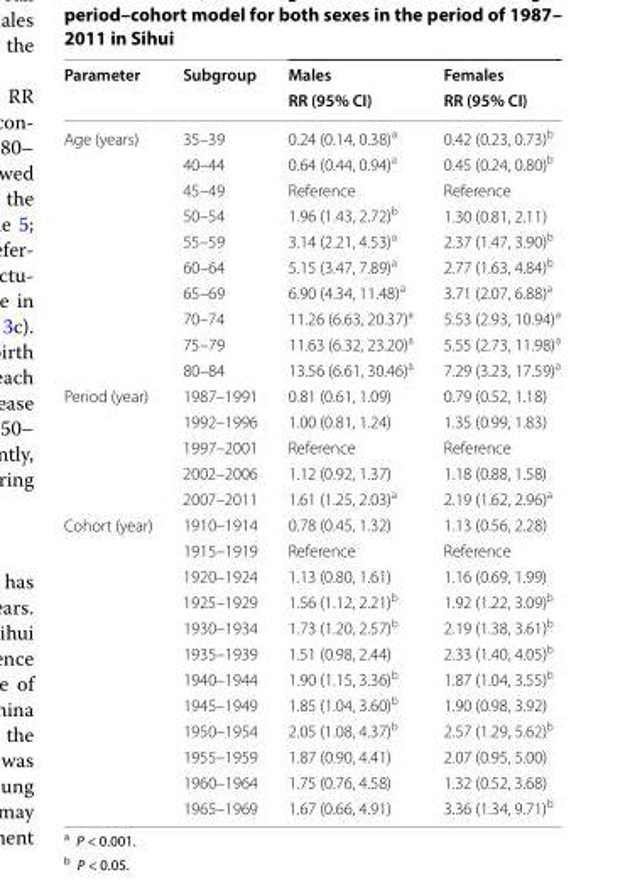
<table><thead><tr><td rowspan="2">Parameter</td><td rowspan="2">Subgroup</td><td rowspan="2">Males RR (95% CI)</td><td rowspan="2">Females RR (95% CI)</td></tr><tr></tr></thead><tbody><tr><td rowspan="10">Age (years)</td><td>35–39</td><td>0.24 (0.14, 0.38)<sup>a</sup></td><td>0.42 (0.23, 0.73)<sup>b</sup></td></tr><tr><td>40–44</td><td>0.64 (0.44, 0.94)<sup>a</sup></td><td>0.45 (0.24, 0.80)<sup>b</sup></td></tr><tr><td>45–49</td><td>Reference</td><td>Reference</td></tr><tr><td>50–54</td><td>1.96 (1.43, 2.72)<sup>b</sup></td><td>1.30 (0.81, 2.11)</td></tr><tr><td>55–59</td><td>3.14 (2.21, 4.53)<sup>a</sup></td><td>2.37 (1.47, 3.90)<sup>b</sup></td></tr><tr><td>60–64</td><td>5.15 (3.47, 7.89)<sup>a</sup></td><td>2.77 (1.63, 4.84)<sup>b</sup></td></tr><tr><td>65–69</td><td>6.90 (4.34, 11.48)<sup>a</sup></td><td>3.71 (2.07, 6.88)<sup>a</sup></td></tr><tr><td>70–74</td><td>11.26 (6.63, 20.37)<sup>a</sup></td><td>5.53 (2.93, 10.94)<sup>a</sup></td></tr><tr><td>75–79</td><td>11.63 (6.32, 23.20)<sup>a</sup></td><td>5.55 (2.73, 11.98)<sup>a</sup></td></tr><tr><td>80–84</td><td>13.56 (6.61, 30.46)<sup>a</sup></td><td>7.29 (3.23, 17.59)<sup>a</sup></td></tr><tr><td rowspan="5">Period (year)</td><td>1987–1991</td><td>0.81 (0.61, 1.09)</td><td>0.79 (0.52, 1.18)</td></tr><tr><td>1992–1996</td><td>1.00 (0.81, 1.24)</td><td>1.35 (0.99, 1.83)</td></tr><tr><td>1997–2001</td><td>Reference</td><td>Reference</td></tr><tr><td>2002–2006</td><td>1.12 (0.92, 1.37)</td><td>1.18 (0.88, 1.58)</td></tr><tr><td>2007–2011</td><td>1.61 (1.25, 2.03)<sup>a</sup></td><td>2.19 (1.62, 2.96)<sup>a</sup></td></tr><tr><td rowspan="12">Cohort (year)</td><td>1910–1914</td><td>0.78 (0.45, 1.32)</td><td>1.13 (0.56, 2.28)</td></tr><tr><td>1915–1919</td><td>Reference</td><td>Reference</td></tr><tr><td>1920–1924</td><td>1.13 (0.80, 1.61)</td><td>1.16 (0.69, 1.99)</td></tr><tr><td>1925–1929</td><td>1.56 (1.12, 2.21)<sup>b</sup></td><td>1.92 (1.22, 3.09)<sup>b</sup></td></tr><tr><td>1930–1934</td><td>1.73 (1.20, 2.57)<sup>b</sup></td><td>2.19 (1.38, 3.61)<sup>b</sup></td></tr><tr><td>1935–1939</td><td>1.51 (0.98, 2.44)</td><td>2.33 (1.40, 4.05)<sup>b</sup></td></tr><tr><td>1940–1944</td><td>1.90 (1.15, 3.36)<sup>b</sup></td><td>1.87 (1.04, 3.55)<sup>b</sup></td></tr><tr><td>1945–1949</td><td>1.85 (1.04, 3.60)<sup>b</sup></td><td>1.90 (0.98, 3.92)</td></tr><tr><td>1950–1954</td><td>2.05 (1.08, 4.37)<sup>b</sup></td><td>2.57 (1.29, 5.62)<sup>b</sup></td></tr><tr><td>1955–1959</td><td>1.87 (0.90, 4.41)</td><td>2.07 (0.95, 5.00)</td></tr><tr><td>1960–1964</td><td>1.75 (0.76, 4.58)</td><td>1.32 (0.52, 3.68)</td></tr><tr><td>1965–1969</td><td>1.67 (0.66, 4.91)</td><td>3.36 (1.34, 9.71)<sup>b</sup></td></tr></tbody></table>